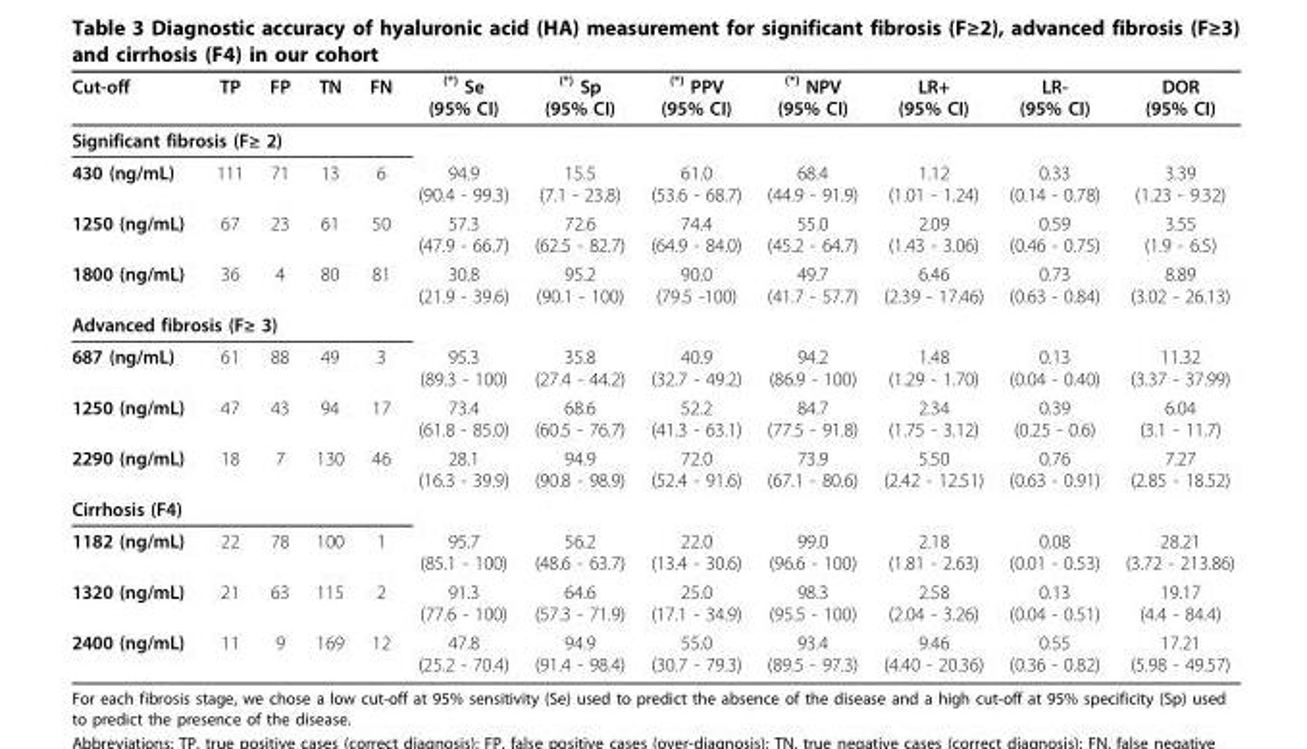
<table><tbody><tr><td>Cut-off</td><td>TP</td><td>FP</td><td>TN</td><td>FN</td><td><sup>(*)</sup> Se (95% CI)</td><td><sup>(*)</sup> Sp (95% CI)</td><td><sup>(*)</sup> PPV (95% CI)</td><td><sup>(*)</sup> NPV (95% CI)</td><td>LR+ (95% CI)</td><td>LR- (95% CI)</td><td>DOR (95% CI)</td></tr><tr><td colspan="12">Significant fibrosis (F≥ 2)</td></tr><tr><td>430 (ng/mL)</td><td>111</td><td>71</td><td>13</td><td>6</td><td>94.9 (90.4 - 99.3)</td><td>15.5 (7.1 - 23.8)</td><td>61.0 (53.6 - 68.7)</td><td>68.4 (44.9 - 91.9)</td><td>1.12 (1.01 - 1.24)</td><td>0.33 (0.14 - 0.78)</td><td>3.39 (1.23 - 9.32)</td></tr><tr><td>1250 (ng/mL)</td><td>67</td><td>23</td><td>61</td><td>50</td><td>57.3 (47.9 - 66.7)</td><td>72.6 (62.5 - 82.7)</td><td>74.4 (64.9 - 84.0)</td><td>55.0 (45.2 - 64.7)</td><td>2.09 (1.43 - 3.06)</td><td>0.59 (0.46 - 0.75)</td><td>3.55 (1.9 - 6.5)</td></tr><tr><td>1800 (ng/mL)</td><td>36</td><td>4</td><td>80</td><td>81</td><td>30.8 (21.9 - 39.6)</td><td>95.2 (90.1 - 100)</td><td>90.0 (79.5 -100)</td><td>49.7 (41.7 - 57.7)</td><td>6.46 (2.39 - 17.46)</td><td>0.73 (0.63 - 0.84)</td><td>8.89 (3.02 - 26.13)</td></tr><tr><td colspan="12">Advanced fibrosis (F≥ 3)</td></tr><tr><td>687 (ng/mL)</td><td>61</td><td>88</td><td>49</td><td>3</td><td>95.3 (89.3 - 100)</td><td>35.8 (27.4 - 44.2)</td><td>40.9 (32.7 - 49.2)</td><td>94.2 (86.9 - 100)</td><td>1.48 (1.29 - 1.70)</td><td>0.13 (0.04 - 0.40)</td><td>11.32 (3.37 - 37.99)</td></tr><tr><td>1250 (ng/mL)</td><td>47</td><td>43</td><td>94</td><td>17</td><td>73.4 (61.8 - 85.0)</td><td>68.6 (60.5 - 76.7)</td><td>52.2 (41.3 - 63.1)</td><td>84.7 (77.5 - 91.8)</td><td>2.34 (1.75 - 3.12)</td><td>0.39 (0.25 - 0.6)</td><td>6.04 (3.1 - 11.7)</td></tr><tr><td>2290 (ng/mL)</td><td>18</td><td>7</td><td>130</td><td>46</td><td>28.1 (16.3 - 39.9)</td><td>94.9 (90.8 - 98.9)</td><td>72.0 (52.4 - 91.6)</td><td>73.9 (67.1 - 80.6)</td><td>5.50 (2.42 - 12.51)</td><td>0.76 (0.63 - 0.91)</td><td>7.27 (2.85 - 18.52)</td></tr><tr><td colspan="12">Cirrhosis (F4)</td></tr><tr><td>1182 (ng/mL)</td><td>22</td><td>78</td><td>100</td><td>1</td><td>95.7 (85.1 - 100)</td><td>56.2 (48.6 - 63.7)</td><td>22.0 (13.4 - 30.6)</td><td>99.0 (96.6 - 100)</td><td>2.18 (1.81 - 2.63)</td><td>0.08 (0.01 - 0.53)</td><td>28.21 (3.72 - 213.86)</td></tr><tr><td>1320 (ng/mL)</td><td>21</td><td>63</td><td>115</td><td>2</td><td>91.3 (77.6 - 100)</td><td>64.6 (57.3 - 71.9)</td><td>25.0 (17.1 - 34.9)</td><td>98.3 (95.5 - 100)</td><td>2.58 (2.04 - 3.26)</td><td>0.13 (0.04 - 0.51)</td><td>19.17 (4.4 - 84.4)</td></tr><tr><td>2400 (ng/mL)</td><td>11</td><td>9</td><td>169</td><td>12</td><td>47.8 (25.2 - 70.4)</td><td>94.9 (91.4 - 98.4)</td><td>55.0 (30.7 - 79.3)</td><td>93.4 (89.5 - 97.3)</td><td>9.46 (4.40 - 20.36)</td><td>0.55 (0.36 - 0.82)</td><td>17.21 (5.98 - 49.57)</td></tr></tbody></table>